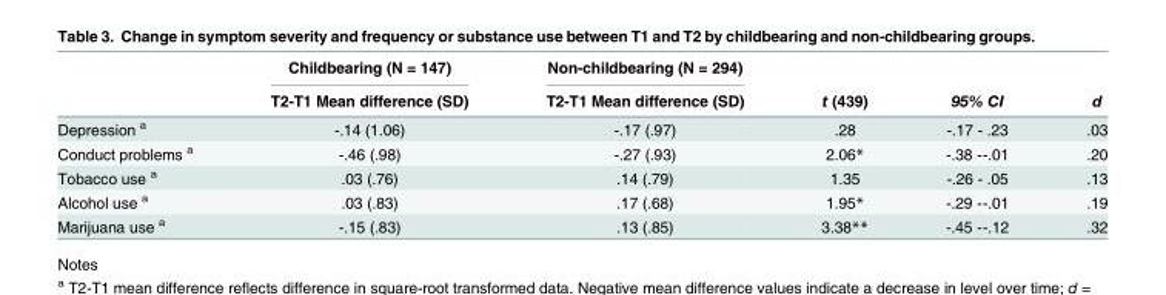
<table><thead><tr><td rowspan="2"></td><td rowspan="2">Childbearing (N = 147) T2-T1 Mean difference (SD)</td><td rowspan="2">Non-childbearing (N = 294) T2-T1 Mean difference (SD)</td><td rowspan="2">t (439)</td><td rowspan="2">95% CI</td><td rowspan="2">d</td></tr><tr></tr></thead><tbody><tr><td>Depression <sup>a</sup></td><td>-.14 (1.06)</td><td>-.17 (.97)</td><td>.28</td><td>-.17 - .23</td><td>.03</td></tr><tr><td>Conduct problems <sup>a</sup></td><td>-.46 (.98)</td><td>-.27 (.93)</td><td>2.06*</td><td>-.38 --.01</td><td>.20</td></tr><tr><td>Tobacco use <sup>a</sup></td><td>.03 (.76)</td><td>.14 (.79)</td><td>1.35</td><td>-.26 - .05</td><td>.13</td></tr><tr><td>Alcohol use <sup>a</sup></td><td>.03 (.83)</td><td>.17 (.68)</td><td>1.95*</td><td>-.29 --.01</td><td>.19</td></tr><tr><td>Marijuana use <sup>a</sup></td><td>-.15 (.83)</td><td>.13 (.85)</td><td>3.38**</td><td>-.45 --.12</td><td>.32</td></tr></tbody></table>